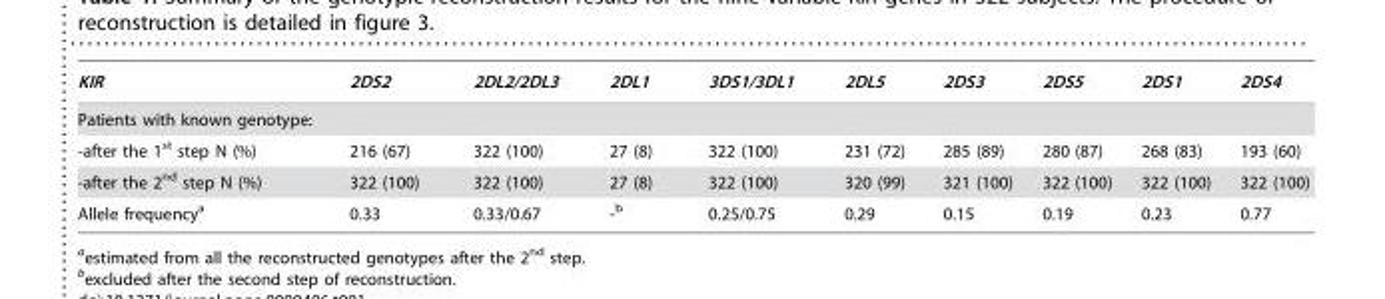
<table><thead><tr><td>KIR</td><td>2DS2</td><td>2DL2/2DL3</td><td>2DL1</td><td>3DS1/3DL1</td><td>2DL5</td><td>2DS3</td><td>2DS5</td><td>2DS1</td><td>2DS4</td></tr></thead><tbody><tr><td colspan="10">Patients with known genotype:</td></tr><tr><td>-after the 1<sup>st</sup> step N (%)</td><td>216 (67)</td><td>322 (100)</td><td>27 (8)</td><td>322 (100)</td><td>231 (72)</td><td>285 (89)</td><td>280 (87)</td><td>268 (83)</td><td>193 (60)</td></tr><tr><td>-after the 2<sup>nd</sup> step N (%)</td><td>322 (100)</td><td>322 (100)</td><td>27 (8)</td><td>322 (100)</td><td>320 (99)</td><td>321 (100)</td><td>322 (100)</td><td>322 (100)</td><td>322 (100)</td></tr><tr><td>Allele frequency<sup>a</sup></td><td>0.33</td><td>0.33/0.67</td><td>-b</td><td>0.25/0.75</td><td>0.29</td><td>0.15</td><td>0.19</td><td>0.23</td><td>0.77</td></tr></tbody></table>